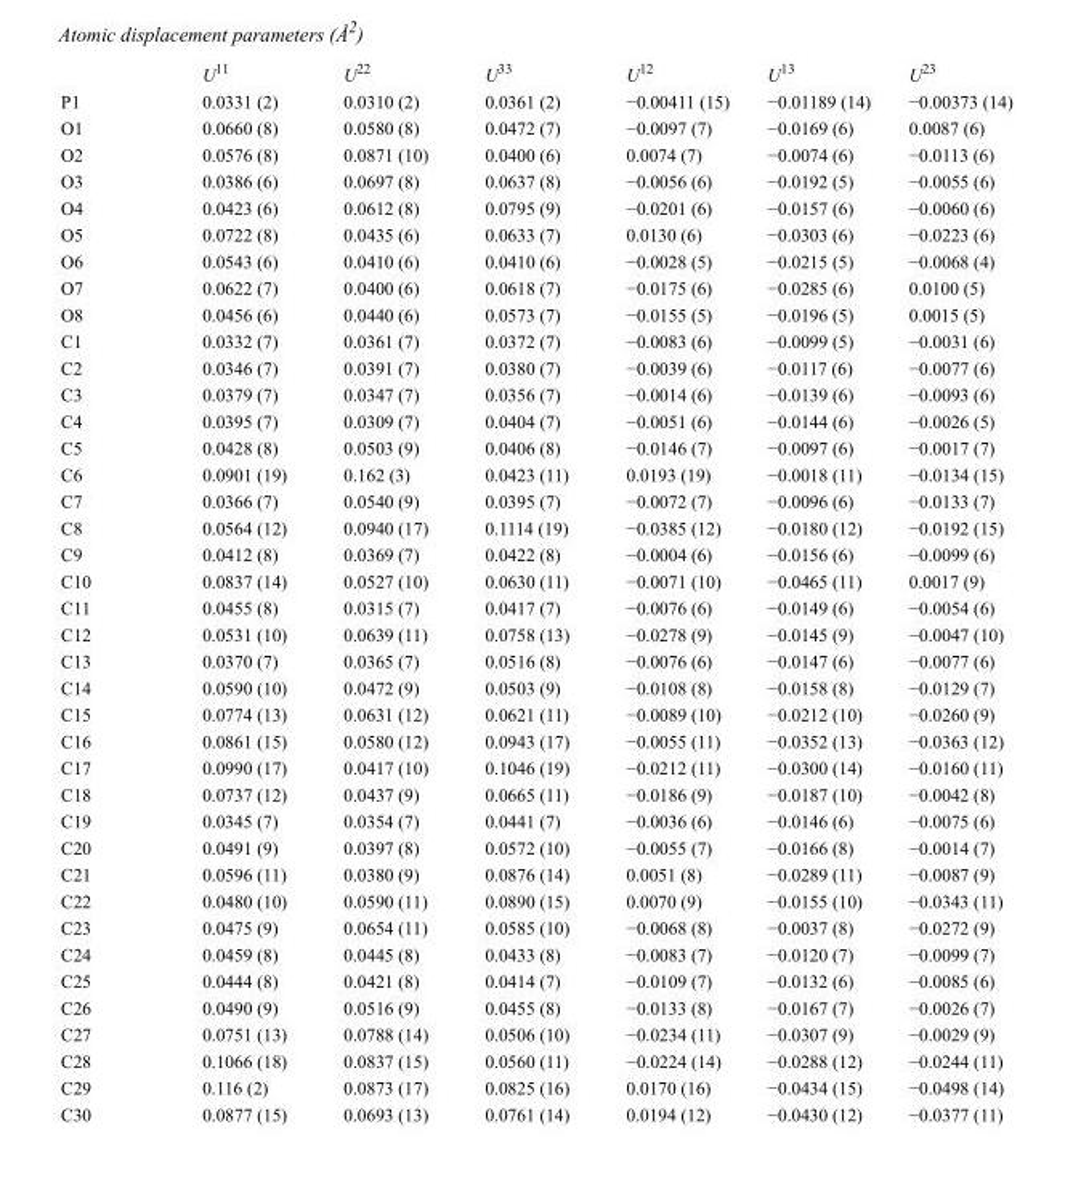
<table><thead><tr><td></td><td>U<sup>11</sup></td><td>U<sup>22</sup></td><td>U<sup>33</sup></td><td>U<sup>12</sup></td><td>U<sup>13</sup></td><td>U<sup>23</sup></td></tr></thead><tbody><tr><td>P1</td><td>0.0331 (2)</td><td>0.0310 (2)</td><td>0.0361 (2)</td><td>−0.00411 (15)</td><td>−0.01189 (14)</td><td>−0.00373 (14)</td></tr><tr><td>O1</td><td>0.0660 (8)</td><td>0.0580 (8)</td><td>0.0472 (7)</td><td>−0.0097 (7)</td><td>−0.0169 (6)</td><td>0.0087 (6)</td></tr><tr><td>O2</td><td>0.0576 (8)</td><td>0.0871 (10)</td><td>0.0400 (6)</td><td>0.0074 (7)</td><td>−0.0074 (6)</td><td>−0.0113 (6)</td></tr><tr><td>O3</td><td>0.0386 (6)</td><td>0.0697 (8)</td><td>0.0637 (8)</td><td>−0.0056 (6)</td><td>−0.0192 (5)</td><td>−0.0055 (6)</td></tr><tr><td>O4</td><td>0.0423 (6)</td><td>0.0612 (8)</td><td>0.0795 (9)</td><td>−0.0201 (6)</td><td>−0.0157 (6)</td><td>−0.0060 (6)</td></tr><tr><td>O5</td><td>0.0722 (8)</td><td>0.0435 (6)</td><td>0.0633 (7)</td><td>0.0130 (6)</td><td>−0.0303 (6)</td><td>−0.0223 (6)</td></tr><tr><td>O6</td><td>0.0543 (6)</td><td>0.0410 (6)</td><td>0.0410 (6)</td><td>−0.0028 (5)</td><td>−0.0215 (5)</td><td>−0.0068 (4)</td></tr><tr><td>O7</td><td>0.0622 (7)</td><td>0.0400 (6)</td><td>0.0618 (7)</td><td>−0.0175 (6)</td><td>−0.0285 (6)</td><td>0.0100 (5)</td></tr><tr><td>O8</td><td>0.0456 (6)</td><td>0.0440 (6)</td><td>0.0573 (7)</td><td>−0.0155 (5)</td><td>−0.0196 (5)</td><td>0.0015 (5)</td></tr><tr><td>C1</td><td>0.0332 (7)</td><td>0.0361 (7)</td><td>0.0372 (7)</td><td>−0.0083 (6)</td><td>−0.0099 (5)</td><td>−0.0031 (6)</td></tr><tr><td>C2</td><td>0.0346 (7)</td><td>0.0391 (7)</td><td>0.0380 (7)</td><td>−0.0039 (6)</td><td>−0.0117 (6)</td><td>−0.0077 (6)</td></tr><tr><td>C3</td><td>0.0379 (7)</td><td>0.0347 (7)</td><td>0.0356 (7)</td><td>−0.0014 (6)</td><td>−0.0139 (6)</td><td>−0.0093 (6)</td></tr><tr><td>C4</td><td>0.0395 (7)</td><td>0.0309 (7)</td><td>0.0404 (7)</td><td>−0.0051 (6)</td><td>−0.0144 (6)</td><td>−0.0026 (5)</td></tr><tr><td>C5</td><td>0.0428 (8)</td><td>0.0503 (9)</td><td>0.0406 (8)</td><td>−0.0146 (7)</td><td>−0.0097 (6)</td><td>−0.0017 (7)</td></tr><tr><td>C6</td><td>0.0901 (19)</td><td>0.162 (3)</td><td>0.0423 (11)</td><td>0.0193 (19)</td><td>−0.0018 (11)</td><td>−0.0134 (15)</td></tr><tr><td>C7</td><td>0.0366 (7)</td><td>0.0540 (9)</td><td>0.0395 (7)</td><td>−0.0072 (7)</td><td>−0.0096 (6)</td><td>−0.0133 (7)</td></tr><tr><td>C8</td><td>0.0564 (12)</td><td>0.0940 (17)</td><td>0.1114 (19)</td><td>−0.0385 (12)</td><td>−0.0180 (12)</td><td>−0.0192 (15)</td></tr><tr><td>C9</td><td>0.0412 (8)</td><td>0.0369 (7)</td><td>0.0422 (8)</td><td>−0.0004 (6)</td><td>−0.0156 (6)</td><td>−0.0099 (6)</td></tr><tr><td>C10</td><td>0.0837 (14)</td><td>0.0527 (10)</td><td>0.0630 (11)</td><td>−0.0071 (10)</td><td>−0.0465 (11)</td><td>0.0017 (9)</td></tr><tr><td>C11</td><td>0.0455 (8)</td><td>0.0315 (7)</td><td>0.0417 (7)</td><td>−0.0076 (6)</td><td>−0.0149 (6)</td><td>−0.0054 (6)</td></tr><tr><td>C12</td><td>0.0531 (10)</td><td>0.0639 (11)</td><td>0.0758 (13)</td><td>−0.0278 (9)</td><td>−0.0145 (9)</td><td>−0.0047 (10)</td></tr><tr><td>C13</td><td>0.0370 (7)</td><td>0.0365 (7)</td><td>0.0516 (8)</td><td>−0.0076 (6)</td><td>−0.0147 (6)</td><td>−0.0077 (6)</td></tr><tr><td>C14</td><td>0.0590 (10)</td><td>0.0472 (9)</td><td>0.0503 (9)</td><td>−0.0108 (8)</td><td>−0.0158 (8)</td><td>−0.0129 (7)</td></tr><tr><td>C15</td><td>0.0774 (13)</td><td>0.0631 (12)</td><td>0.0621 (11)</td><td>−0.0089 (10)</td><td>−0.0212 (10)</td><td>−0.0260 (9)</td></tr><tr><td>C16</td><td>0.0861 (15)</td><td>0.0580 (12)</td><td>0.0943 (17)</td><td>−0.0055 (11)</td><td>−0.0352 (13)</td><td>−0.0363 (12)</td></tr><tr><td>C17</td><td>0.0990 (17)</td><td>0.0417 (10)</td><td>0.1046 (19)</td><td>−0.0212 (11)</td><td>−0.0300 (14)</td><td>−0.0160 (11)</td></tr><tr><td>C18</td><td>0.0737 (12)</td><td>0.0437 (9)</td><td>0.0665 (11)</td><td>−0.0186 (9)</td><td>−0.0187 (10)</td><td>−0.0042 (8)</td></tr><tr><td>C19</td><td>0.0345 (7)</td><td>0.0354 (7)</td><td>0.0441 (7)</td><td>−0.0036 (6)</td><td>−0.0146 (6)</td><td>−0.0075 (6)</td></tr><tr><td>C20</td><td>0.0491 (9)</td><td>0.0397 (8)</td><td>0.0572 (10)</td><td>−0.0055 (7)</td><td>−0.0166 (8)</td><td>−0.0014 (7)</td></tr><tr><td>C21</td><td>0.0596 (11)</td><td>0.0380 (9)</td><td>0.0876 (14)</td><td>0.0051 (8)</td><td>−0.0289 (11)</td><td>−0.0087 (9)</td></tr><tr><td>C22</td><td>0.0480 (10)</td><td>0.0590 (11)</td><td>0.0890 (15)</td><td>0.0070 (9)</td><td>−0.0155 (10)</td><td>−0.0343 (11)</td></tr><tr><td>C23</td><td>0.0475 (9)</td><td>0.0654 (11)</td><td>0.0585 (10)</td><td>−0.0068 (8)</td><td>−0.0037 (8)</td><td>−0.0272 (9)</td></tr><tr><td>C24</td><td>0.0459 (8)</td><td>0.0445 (8)</td><td>0.0433 (8)</td><td>−0.0083 (7)</td><td>−0.0120 (7)</td><td>−0.0099 (7)</td></tr><tr><td>C25</td><td>0.0444 (8)</td><td>0.0421 (8)</td><td>0.0414 (7)</td><td>−0.0109 (7)</td><td>−0.0132 (6)</td><td>−0.0085 (6)</td></tr><tr><td>C26</td><td>0.0490 (9)</td><td>0.0516 (9)</td><td>0.0455 (8)</td><td>−0.0133 (8)</td><td>−0.0167 (7)</td><td>−0.0026 (7)</td></tr><tr><td>C27</td><td>0.0751 (13)</td><td>0.0788 (14)</td><td>0.0506 (10)</td><td>−0.0234 (11)</td><td>−0.0307 (9)</td><td>−0.0029 (9)</td></tr><tr><td>C28</td><td>0.1066 (18)</td><td>0.0837 (15)</td><td>0.0560 (11)</td><td>−0.0224 (14)</td><td>−0.0288 (12)</td><td>−0.0244 (11)</td></tr><tr><td>C29</td><td>0.116 (2)</td><td>0.0873 (17)</td><td>0.0825 (16)</td><td>0.0170 (16)</td><td>−0.0434 (15)</td><td>−0.0498 (14)</td></tr><tr><td>C30</td><td>0.0877 (15)</td><td>0.0693 (13)</td><td>0.0761 (14)</td><td>0.0194 (12)</td><td>−0.0430 (12)</td><td>−0.0377 (11)</td></tr></tbody></table>